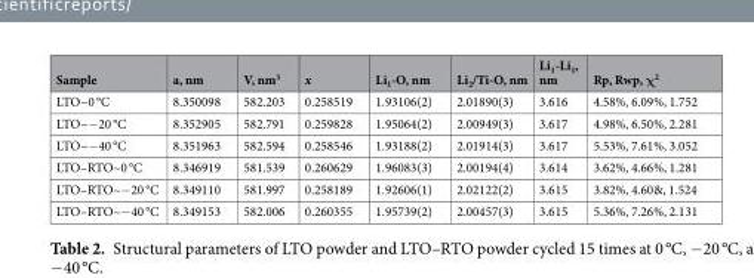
<table><thead><tr><td>Sample</td><td>a, nm</td><td>V, nm<sup>3</sup></td><td>x</td><td>Li<sub>1</sub>-O, nm</td><td>Li<sub>2</sub>/Ti-O, nm</td><td>Li<sub>1</sub>-Li<sub>1</sub>, nm</td><td>Rp, Rwp, χ<sup>2</sup></td></tr></thead><tbody><tr><td>LTO~0 °C</td><td>8.350098</td><td>582.203</td><td>0.258519</td><td>1.93106(2)</td><td>2.01890(3)</td><td>3.616</td><td>4.58%, 6.09%, 1.752</td></tr><tr><td>LTO~−20 °C</td><td>8.352905</td><td>582.791</td><td>0.259828</td><td>1.95064(2)</td><td>2.00949(3)</td><td>3.617</td><td>4.98%, 6.50%, 2.281</td></tr><tr><td>LTO~−40 °C</td><td>8.351963</td><td>582.594</td><td>0.258546</td><td>1.93188(2)</td><td>2.01914(3)</td><td>3.617</td><td>5.53%, 7.61%, 3.052</td></tr><tr><td>LTO–RTO~0 °C</td><td>8.346919</td><td>581.539</td><td>0.260629</td><td>1.96083(3)</td><td>2.00194(4)</td><td>3.614</td><td>3.62%, 4.66%, 1.281</td></tr><tr><td>LTO–RTO~−20 °C</td><td>8.349110</td><td>581.997</td><td>0.258189</td><td>1.92606(1)</td><td>2.02122(2)</td><td>3.615</td><td>3.82%, 4.60&amp;, 1.524</td></tr><tr><td>LTO–RTO~−40 °C</td><td>8.349153</td><td>582.006</td><td>0.260355</td><td>1.95739(2)</td><td>2.00457(3)</td><td>3.615</td><td>5.36%, 7.26%, 2.131</td></tr></tbody></table>